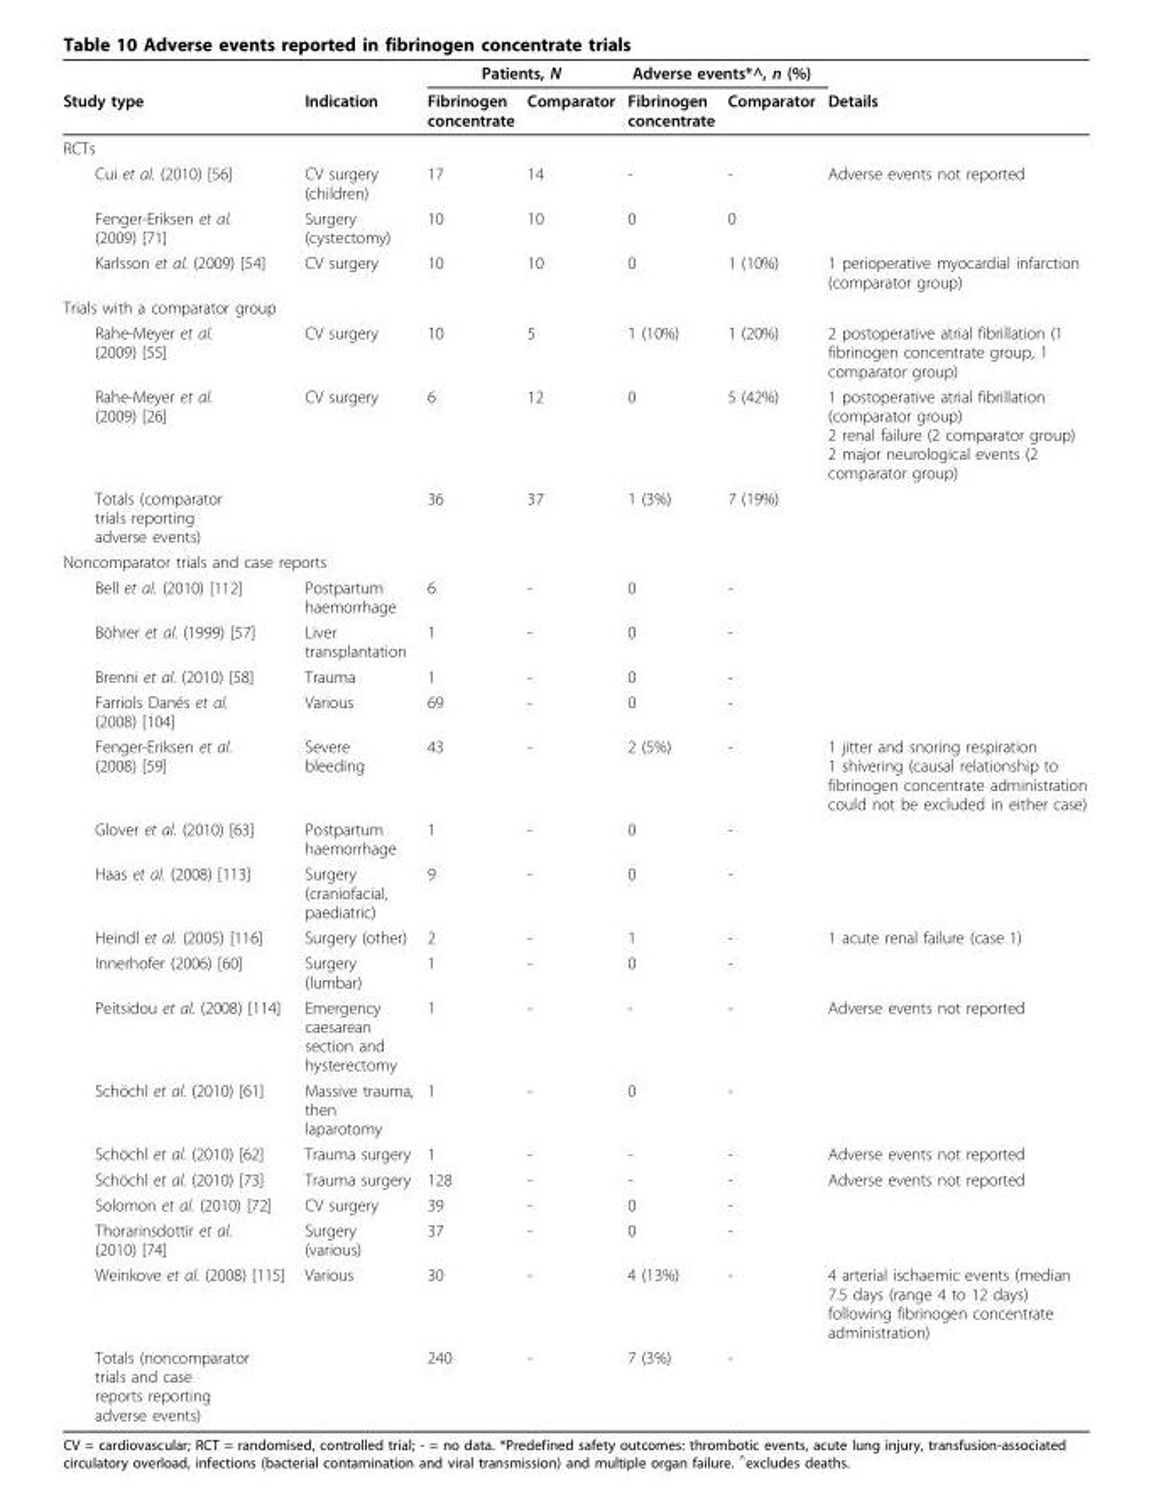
<table><thead><tr><td rowspan="2">Study type</td><td rowspan="2">Indication</td><td colspan="2">Patients, N</td><td colspan="2">Adverse events*^, n (%)</td><td rowspan="2">Details</td></tr><tr><td>Fibrinogen concentrate</td><td>Comparator</td><td>Fibrinogen concentrate</td><td>Comparator</td></tr></thead><tbody><tr><td colspan="7">RCTs</td></tr><tr><td>Cui et al. (2010) [56]</td><td>CV surgery (children)</td><td>17</td><td>14</td><td>-</td><td>-</td><td>Adverse events not reported</td></tr><tr><td>Fenger-Eriksen et al. (2009) [71]</td><td>Surgery (cystectomy)</td><td>10</td><td>10</td><td>0</td><td>0</td><td></td></tr><tr><td>Karlsson et al. (2009) [54]</td><td>CV surgery</td><td>10</td><td>10</td><td>0</td><td>1 (10%)</td><td>1 perioperative myocardial infarction (comparator group)</td></tr><tr><td colspan="7">Trials with a comparator group</td></tr><tr><td>Rahe-Meyer et al. (2009) [55]</td><td>CV surgery</td><td>10</td><td>5</td><td>1 (10%)</td><td>1 (20%)</td><td>2 postoperative atrial fibrillation (1 fibrinogen concentrate group, 1 comparator group)</td></tr><tr><td>Rahe-Meyer et al. (2009) [26]</td><td>CV surgery</td><td>6</td><td>12</td><td>0</td><td>5 (42%)</td><td>1 postoperative atrial fibrillation (comparator group) 2 renal failure (2 comparator group) 2 major neurological events (2 comparator group)</td></tr><tr><td>Totals (comparator trials reporting adverse events)</td><td></td><td>36</td><td>37</td><td>1 (3%)</td><td>7 (19%)</td><td></td></tr><tr><td colspan="7">Noncomparator trials and case reports</td></tr><tr><td>Bell et al. (2010) [112]</td><td>Postpartum haemorrhage</td><td>6</td><td>-</td><td>0</td><td>-</td><td></td></tr><tr><td>Böhrer et al. (1999) [57]</td><td>Liver transplantation</td><td>1</td><td>-</td><td>0</td><td>-</td><td></td></tr><tr><td>Brenni et al. (2010) [58]</td><td>Trauma</td><td>1</td><td>-</td><td>0</td><td>-</td><td></td></tr><tr><td>Farriols Danés et al. (2008) [104]</td><td>Various</td><td>69</td><td>-</td><td>0</td><td>-</td><td></td></tr><tr><td>Fenger-Eriksen et al. (2008) [59]</td><td>Severe bleeding</td><td>43</td><td>-</td><td>2 (5%)</td><td>-</td><td>1 jitter and snoring respiration 1 shivering (causal relationship to fibrinogen concentrate administration could not be excluded in either case)</td></tr><tr><td>Glover et al. (2010) [63]</td><td>Postpartum haemorrhage</td><td>1</td><td>-</td><td>0</td><td>-</td><td></td></tr><tr><td>Haas et al. (2008) [113]</td><td>Surgery (craniofacial, paediatric)</td><td>9</td><td>-</td><td>0</td><td>-</td><td></td></tr><tr><td>Heindl et al. (2005) [116]</td><td>Surgery (other)</td><td>2</td><td>-</td><td>1</td><td>-</td><td>1 acute renal failure (case 1)</td></tr><tr><td>Innerhofer (2006) [60]</td><td>Surgery (lumbar)</td><td>1</td><td>-</td><td>0</td><td>-</td><td></td></tr><tr><td>Peitsidou et al. (2008) [114]</td><td>Emergency caesarean section and hysterectomy</td><td>1</td><td>-</td><td>-</td><td>-</td><td>Adverse events not reported</td></tr><tr><td>Schöchl et al. (2010) [61]</td><td>Massive trauma, then laparotomy</td><td>1</td><td>-</td><td>0</td><td>-</td><td></td></tr><tr><td>Schöchl et al. (2010) [62]</td><td>Trauma surgery</td><td>1</td><td>-</td><td>-</td><td>-</td><td>Adverse events not reported</td></tr><tr><td>Schöchl et al. (2010) [73]</td><td>Trauma surgery</td><td>128</td><td>-</td><td>-</td><td>-</td><td>Adverse events not reported</td></tr><tr><td>Solomon et al. (2010) [72]</td><td>CV surgery</td><td>39</td><td>-</td><td>0</td><td>-</td><td></td></tr><tr><td>Thorarinsdottir et al. (2010) [74]</td><td>Surgery (various)</td><td>37</td><td>-</td><td>0</td><td>-</td><td></td></tr><tr><td>Weinkove et al. (2008) [115]</td><td>Various</td><td>30</td><td>-</td><td>4 (13%)</td><td>-</td><td>4 arterial ischaemic events (median 7.5 days (range 4 to 12 days) following fibrinogen concentrate administration)</td></tr><tr><td>Totals (noncomparator trials and case reports reporting adverse events)</td><td></td><td>240</td><td>-</td><td>7 (3%)</td><td>-</td><td></td></tr></tbody></table>